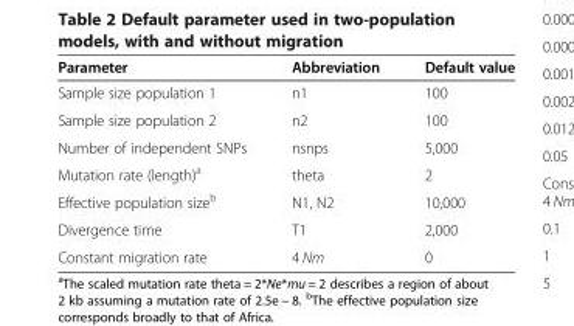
<table><thead><tr><td>Parameter</td><td>Abbreviation</td><td>Default value</td></tr></thead><tbody><tr><td>Sample size population 1</td><td>n1</td><td>100</td></tr><tr><td>Sample size population 2</td><td>n2</td><td>100</td></tr><tr><td>Number of independent SNPs</td><td>nsnps</td><td>5,000</td></tr><tr><td>Mutation rate (length)<sup>a</sup></td><td>theta</td><td>2</td></tr><tr><td>Effective population size<sup>b</sup></td><td>N1, N2</td><td>10,000</td></tr><tr><td>Divergence time</td><td>T1</td><td>2,000</td></tr><tr><td>Constant migration rate</td><td>4 Nm</td><td>0</td></tr></tbody></table>